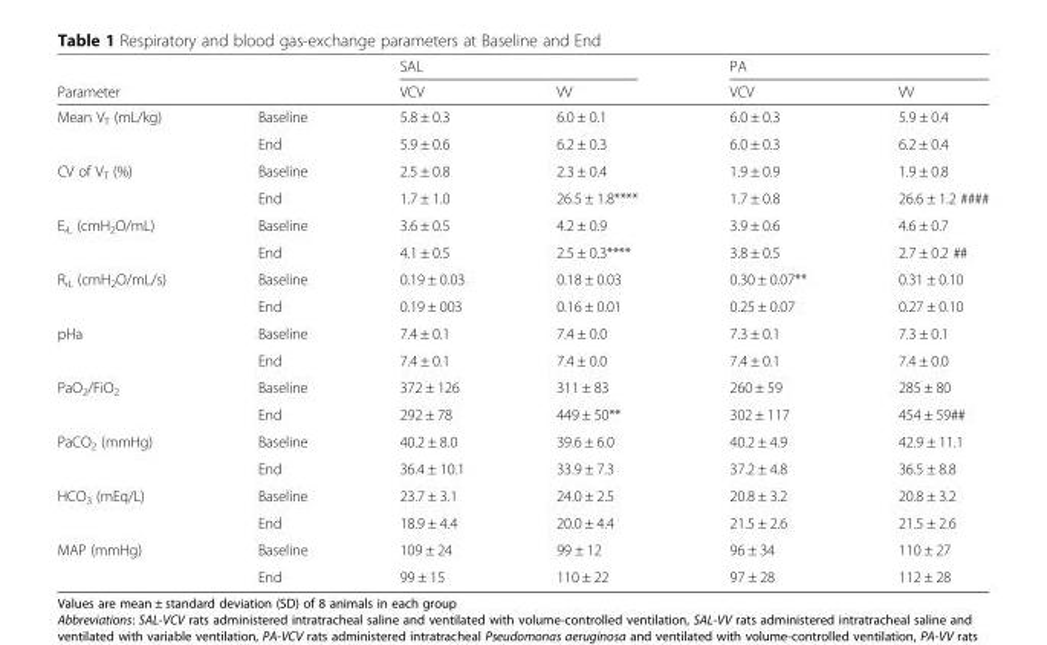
<table><thead><tr><td rowspan="2">Parameter</td><td rowspan="2"></td><td colspan="2">SAL</td><td colspan="2">PA</td></tr><tr><td>VCV</td><td>VV</td><td>VCV</td><td>VV</td></tr></thead><tbody><tr><td rowspan="2">Mean V<sub>T</sub> (mL/kg)</td><td>Baseline</td><td>5.8 ± 0.3</td><td>6.0 ± 0.1</td><td>6.0 ± 0.3</td><td>5.9 ± 0.4</td></tr><tr><td>End</td><td>5.9 ± 0.6</td><td>6.2 ± 0.3</td><td>6.0 ± 0.3</td><td>6.2 ± 0.4</td></tr><tr><td rowspan="2">CV of V<sub>T</sub> (%)</td><td>Baseline</td><td>2.5 ± 0.8</td><td>2.3 ± 0.4</td><td>1.9 ± 0.9</td><td>1.9 ± 0.8</td></tr><tr><td>End</td><td>1.7 ± 1.0</td><td>26.5 ± 1.8****</td><td>1.7 ± 0.8</td><td>26.6 ± 1.2 ####</td></tr><tr><td rowspan="2">E,<sub>L</sub> (cmH<sub>2</sub>O/mL)</td><td>Baseline</td><td>3.6 ± 0.5</td><td>4.2 ± 0.9</td><td>3.9 ± 0.6</td><td>4.6 ± 0.7</td></tr><tr><td>End</td><td>4.1 ± 0.5</td><td>2.5 ± 0.3****</td><td>3.8 ± 0.5</td><td>2.7 ± 0.2 ##</td></tr><tr><td rowspan="2">R,<sub>L</sub> (cmH<sub>2</sub>O/mL/s)</td><td>Baseline</td><td>0.19 ± 0.03</td><td>0.18 ± 0.03</td><td>0.30 ± 0.07**</td><td>0.31 ± 0.10</td></tr><tr><td>End</td><td>0.19 ± 003</td><td>0.16 ± 0.01</td><td>0.25 ± 0.07</td><td>0.27 ± 0.10</td></tr><tr><td rowspan="2">pHa</td><td>Baseline</td><td>7.4 ± 0.1</td><td>7.4 ± 0.0</td><td>7.3 ± 0.1</td><td>7.3 ± 0.1</td></tr><tr><td>End</td><td>7.4 ± 0.1</td><td>7.4 ± 0.0</td><td>7.4 ± 0.1</td><td>7.4 ± 0.0</td></tr><tr><td rowspan="2">PaO<sub>2</sub>/FiO<sub>2</sub></td><td>Baseline</td><td>372 ± 126</td><td>311 ± 83</td><td>260 ± 59</td><td>285 ± 80</td></tr><tr><td>End</td><td>292 ± 78</td><td>449 ± 50**</td><td>302 ± 117</td><td>454 ± 59##</td></tr><tr><td rowspan="2">PaCO<sub>2</sub> (mmHg)</td><td>Baseline</td><td>40.2 ± 8.0</td><td>39.6 ± 6.0</td><td>40.2 ± 4.9</td><td>42.9 ± 11.1</td></tr><tr><td>End</td><td>36.4 ± 10.1</td><td>33.9 ± 7.3</td><td>37.2 ± 4.8</td><td>36.5 ± 8.8</td></tr><tr><td rowspan="2">HCO<sub>3</sub> (mEq/L)</td><td>Baseline</td><td>23.7 ± 3.1</td><td>24.0 ± 2.5</td><td>20.8 ± 3.2</td><td>20.8 ± 3.2</td></tr><tr><td>End</td><td>18.9 ± 4.4</td><td>20.0 ± 4.4</td><td>21.5 ± 2.6</td><td>21.5 ± 2.6</td></tr><tr><td rowspan="2">MAP (mmHg)</td><td>Baseline</td><td>109 ± 24</td><td>99 ± 12</td><td>96 ± 34</td><td>110 ± 27</td></tr><tr><td>End</td><td>99 ± 15</td><td>110 ± 22</td><td>97 ± 28</td><td>112 ± 28</td></tr></tbody></table>